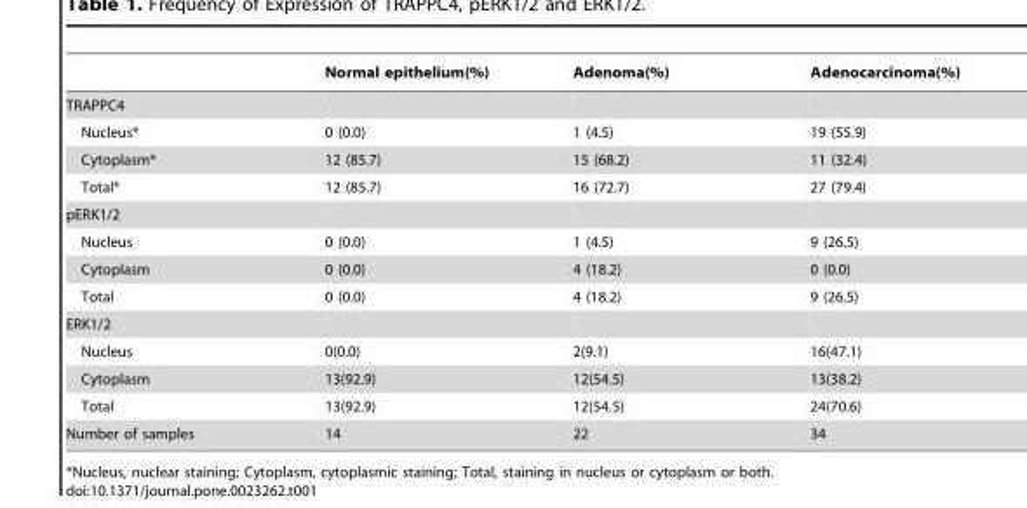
<table><thead><tr><td></td><td>Normal epithelium(%)</td><td>Adenoma(%)</td><td>Adenocarcinoma(%)</td></tr></thead><tbody><tr><td colspan="4">TRAPPC4</td></tr><tr><td>Nucleus*</td><td>0 (0.0)</td><td>1 (4.5)</td><td>19 (55.9)</td></tr><tr><td>Cytoplasm*</td><td>12 (85.7)</td><td>15 (68.2)</td><td>11 (32.4)</td></tr><tr><td>Total*</td><td>12 (85.7)</td><td>16 (72.7)</td><td>27 (79.4)</td></tr><tr><td colspan="4">pERK1/2</td></tr><tr><td>Nucleus</td><td>0 (0.0)</td><td>1 (4.5)</td><td>9 (26.5)</td></tr><tr><td>Cytoplasm</td><td>0 (0.0)</td><td>4 (18.2)</td><td>0 (0.0)</td></tr><tr><td>Total</td><td>0 (0.0)</td><td>4 (18.2)</td><td>9 (26.5)</td></tr><tr><td colspan="4">ERK1/2</td></tr><tr><td>Nucleus</td><td>0(0.0)</td><td>2(9.1)</td><td>16(47.1)</td></tr><tr><td>Cytoplasm</td><td>13(92.9)</td><td>12(54.5)</td><td>13(38.2)</td></tr><tr><td>Total</td><td>13(92.9)</td><td>12(54.5)</td><td>24(70.6)</td></tr><tr><td>Number of samples</td><td>14</td><td>22</td><td>34</td></tr></tbody></table>